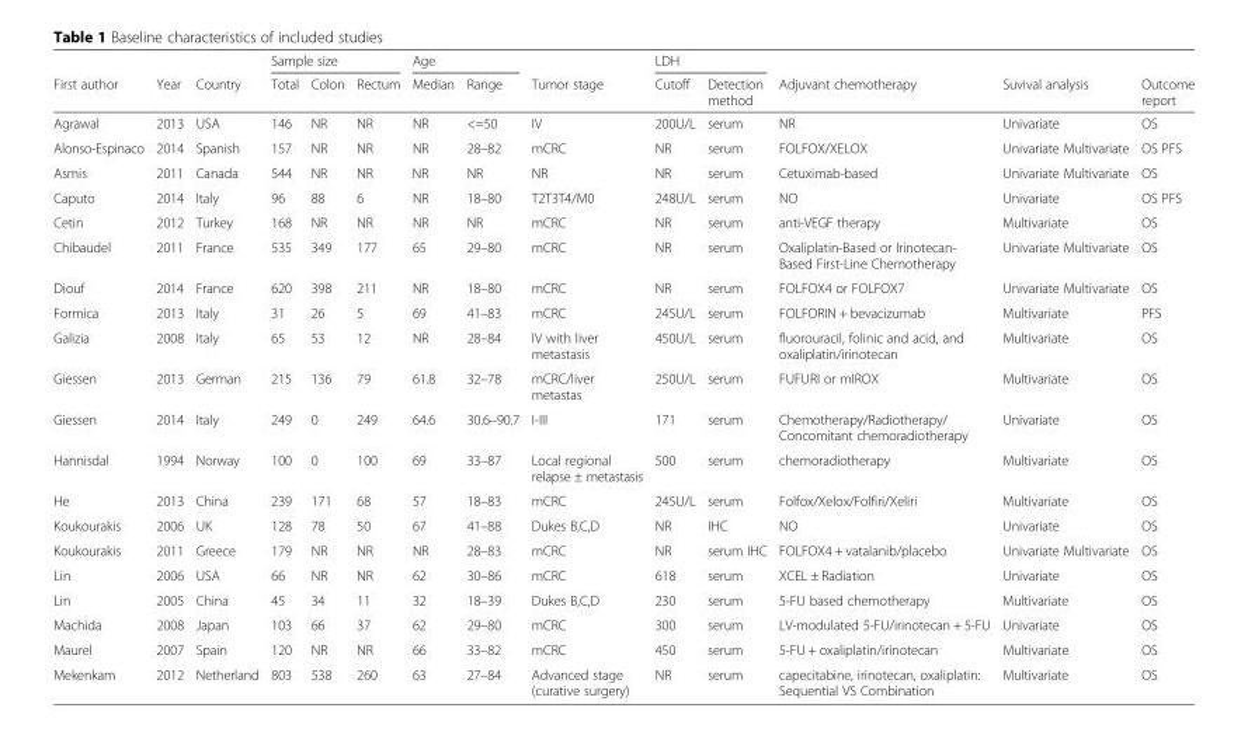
<table><thead><tr><td rowspan="2">First author</td><td rowspan="2">Year</td><td rowspan="2">Country</td><td colspan="3">Sample size</td><td colspan="2">Age</td><td rowspan="2">Tumor stage</td><td colspan="2">LDH</td><td rowspan="2">Adjuvant chemotherapy</td><td rowspan="2">Suvival analysis</td><td rowspan="2">Outcome report</td></tr><tr><td>Total</td><td>Colon</td><td>Rectum</td><td>Median</td><td>Range</td><td>Cutoff</td><td>Detection method</td></tr></thead><tbody><tr><td>Agrawal</td><td>2013</td><td>USA</td><td>146</td><td>NR</td><td>NR</td><td>NR</td><td>&lt;=50</td><td>IV</td><td>200U/L</td><td>serum</td><td>NR</td><td>Univariate</td><td>OS</td></tr><tr><td>Alonso-Espinaco</td><td>2014</td><td>Spanish</td><td>157</td><td>NR</td><td>NR</td><td>NR</td><td>28–82</td><td>mCRC</td><td>NR</td><td>serum</td><td>FOLFOX/XELOX</td><td>Univariate Multivariate</td><td>OS PFS</td></tr><tr><td>Asmis</td><td>2011</td><td>Canada</td><td>544</td><td>NR</td><td>NR</td><td>NR</td><td>NR</td><td>NR</td><td>NR</td><td>serum</td><td>Cetuximab-based</td><td>Univariate Multivariate</td><td>OS</td></tr><tr><td>Caputo</td><td>2014</td><td>Italy</td><td>96</td><td>88</td><td>6</td><td>NR</td><td>18–80</td><td>T2T3T4/M0</td><td>248U/L</td><td>serum</td><td>NO</td><td>Univariate</td><td>OS PFS</td></tr><tr><td>Cetin</td><td>2012</td><td>Turkey</td><td>168</td><td>NR</td><td>NR</td><td>NR</td><td>NR</td><td>mCRC</td><td>NR</td><td>serum</td><td>anti-VEGF therapy</td><td>Multivariate</td><td>OS</td></tr><tr><td>Chibaudel</td><td>2011</td><td>France</td><td>535</td><td>349</td><td>177</td><td>65</td><td>29–80</td><td>mCRC</td><td>NR</td><td>serum</td><td>Oxaliplatin-Based or Irinotecan- Based First-Line Chemotherapy</td><td>Univariate Multivariate</td><td>OS</td></tr><tr><td>Diouf</td><td>2014</td><td>France</td><td>620</td><td>398</td><td>211</td><td>NR</td><td>18–80</td><td>mCRC</td><td>NR</td><td>serum</td><td>FOLFOX4 or FOLFOX7</td><td>Univariate Multivariate</td><td>OS</td></tr><tr><td>Formica</td><td>2013</td><td>Italy</td><td>31</td><td>26</td><td>5</td><td>69</td><td>41–83</td><td>mCRC</td><td>245U/L</td><td>serum</td><td>FOLFORIN + bevacizumab</td><td>Multivariate</td><td>PFS</td></tr><tr><td>Galizia</td><td>2008</td><td>Italy</td><td>65</td><td>53</td><td>12</td><td>NR</td><td>28–84</td><td>IV with liver metastasis</td><td>450U/L</td><td>serum</td><td>fluorouracil, folinic and acid, and oxaliplatin/irinotecan</td><td>Multivariate</td><td>OS</td></tr><tr><td>Giessen</td><td>2013</td><td>German</td><td>215</td><td>136</td><td>79</td><td>61.8</td><td>32–78</td><td>mCRC/liver metastas</td><td>250U/L</td><td>serum</td><td>FUFURI or mIROX</td><td>Multivariate</td><td>OS</td></tr><tr><td>Giessen</td><td>2014</td><td>Italy</td><td>249</td><td>0</td><td>249</td><td>64.6</td><td>30.6–90.7</td><td>I-III</td><td>171</td><td>serum</td><td>Chemotherapy/Radiotherapy/ Concomitant chemoradiotherapy</td><td>Univariate</td><td>OS</td></tr><tr><td>Hannisdal</td><td>1994</td><td>Norway</td><td>100</td><td>0</td><td>100</td><td>69</td><td>33–87</td><td>Local regional relapse ± metastasis</td><td>500</td><td>serum</td><td>chemoradiotherapy</td><td>Multivariate</td><td>OS</td></tr><tr><td>He</td><td>2013</td><td>China</td><td>239</td><td>171</td><td>68</td><td>57</td><td>18–83</td><td>mCRC</td><td>245U/L</td><td>serum</td><td>Folfox/Xelox/Folfiri/Xeliri</td><td>Multivariate</td><td>OS</td></tr><tr><td>Koukourakis</td><td>2006</td><td>UK</td><td>128</td><td>78</td><td>50</td><td>67</td><td>41–88</td><td>Dukes B,C,D</td><td>NR</td><td>IHC</td><td>NO</td><td>Univariate</td><td>OS</td></tr><tr><td>Koukourakis</td><td>2011</td><td>Greece</td><td>179</td><td>NR</td><td>NR</td><td>NR</td><td>28–83</td><td>mCRC</td><td>NR</td><td>serum IHC</td><td>FOLFOX4 + vatalanib/placebo</td><td>Univariate Multivariate</td><td>OS</td></tr><tr><td>Lin</td><td>2006</td><td>USA</td><td>66</td><td>NR</td><td>NR</td><td>62</td><td>30–86</td><td>mCRC</td><td>618</td><td>serum</td><td>XCEL ± Radiation</td><td>Univariate</td><td>OS</td></tr><tr><td>Lin</td><td>2005</td><td>China</td><td>45</td><td>34</td><td>11</td><td>32</td><td>18–39</td><td>Dukes B,C,D</td><td>230</td><td>serum</td><td>5-FU based chemotherapy</td><td>Multivariate</td><td>OS</td></tr><tr><td>Machida</td><td>2008</td><td>Japan</td><td>103</td><td>66</td><td>37</td><td>62</td><td>29–80</td><td>mCRC</td><td>300</td><td>serum</td><td>LV-modulated 5-FU/irinotecan + 5-FU</td><td>Univariate</td><td>OS</td></tr><tr><td>Maurel</td><td>2007</td><td>Spain</td><td>120</td><td>NR</td><td>NR</td><td>66</td><td>33–82</td><td>mCRC</td><td>450</td><td>serum</td><td>5-FU + oxaliplatin/irinotecan</td><td>Multivariate</td><td>OS</td></tr><tr><td>Mekenkam</td><td>2012</td><td>Netherland</td><td>803</td><td>538</td><td>260</td><td>63</td><td>27–84</td><td>Advanced stage (curative surgery)</td><td>NR</td><td>serum</td><td>capecitabine, irinotecan, oxaliplatin: Sequential VS Combination</td><td>Multivariate</td><td>OS</td></tr></tbody></table>